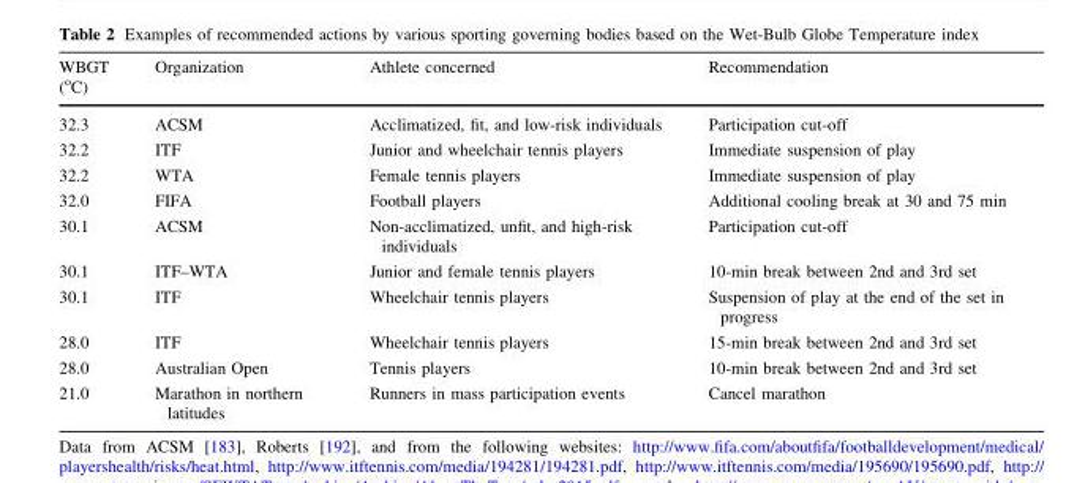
<table><thead><tr><td>WBGT (<sup>o</sup>C)</td><td>Organization</td><td>Athlete concerned</td><td>Recommendation</td></tr></thead><tbody><tr><td>32.3</td><td>ACSM</td><td>Acclimatized, fit, and low-risk individuals</td><td>Participation cut-off</td></tr><tr><td>32.2</td><td>ITF</td><td>Junior and wheelchair tennis players</td><td>Immediate suspension of play</td></tr><tr><td>32.2</td><td>WTA</td><td>Female tennis players</td><td>Immediate suspension of play</td></tr><tr><td>32.0</td><td>FIFA</td><td>Football players</td><td>Additional cooling break at 30 and 75 min</td></tr><tr><td>30.1</td><td>ACSM</td><td>Non-acclimatized, unfit, and high-risk individuals</td><td>Participation cut-off</td></tr><tr><td>30.1</td><td>ITF–WTA</td><td>Junior and female tennis players</td><td>10-min break between 2nd and 3rd set</td></tr><tr><td>30.1</td><td>ITF</td><td>Wheelchair tennis players</td><td>Suspension of play at the end of the set in progress</td></tr><tr><td>28.0</td><td>ITF</td><td>Wheelchair tennis players</td><td>15-min break between 2nd and 3rd set</td></tr><tr><td>28.0</td><td>Australian Open</td><td>Tennis players</td><td>10-min break between 2nd and 3rd set</td></tr><tr><td>21.0</td><td>Marathon in northern latitudes</td><td>Runners in mass participation events</td><td>Cancel marathon</td></tr></tbody></table>